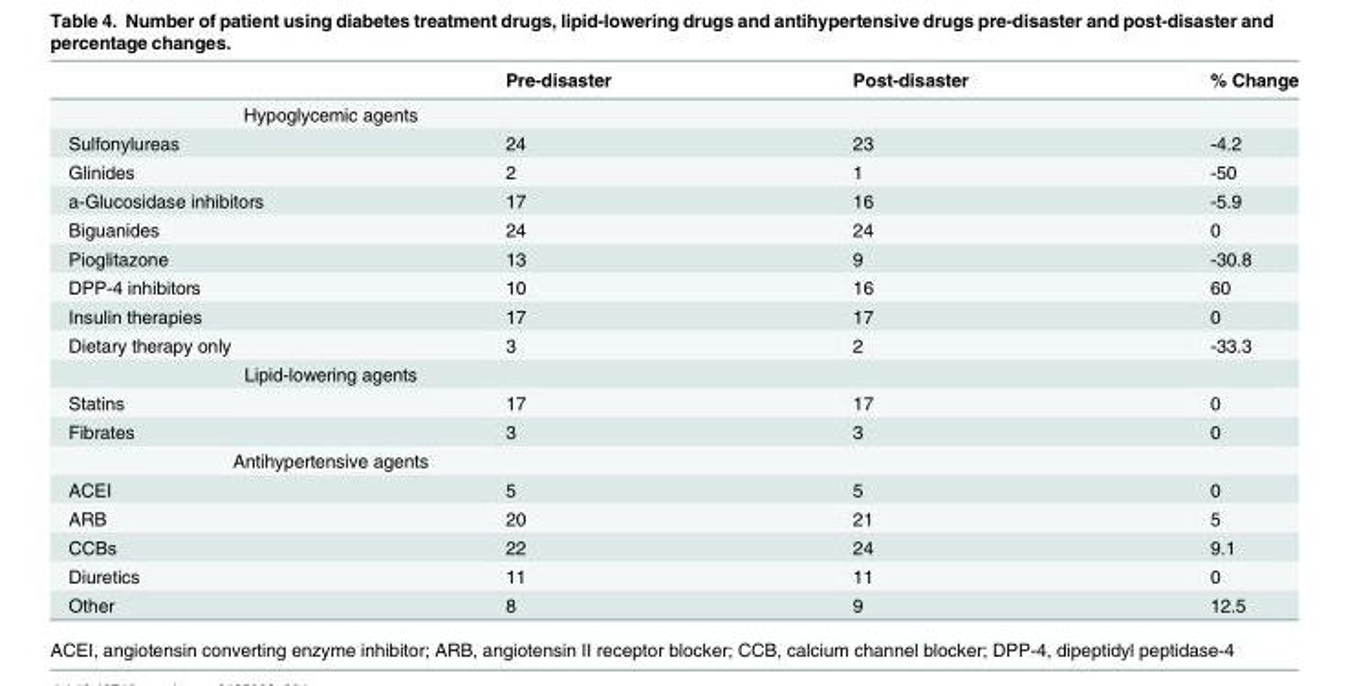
<table><thead><tr><td></td><td>Pre-disaster</td><td>Post-disaster</td><td>% Change</td></tr></thead><tbody><tr><td colspan="4">Hypoglycemic agents</td></tr><tr><td>Sulfonylureas</td><td>24</td><td>23</td><td>-4.2</td></tr><tr><td>Glinides</td><td>2</td><td>1</td><td>-50</td></tr><tr><td>a-Glucosidase inhibitors</td><td>17</td><td>16</td><td>-5.9</td></tr><tr><td>Biguanides</td><td>24</td><td>24</td><td>0</td></tr><tr><td>Pioglitazone</td><td>13</td><td>9</td><td>-30.8</td></tr><tr><td>DPP-4 inhibitors</td><td>10</td><td>16</td><td>60</td></tr><tr><td>Insulin therapies</td><td>17</td><td>17</td><td>0</td></tr><tr><td>Dietary therapy only</td><td>3</td><td>2</td><td>-33.3</td></tr><tr><td colspan="4">Lipid-lowering agents</td></tr><tr><td>Statins</td><td>17</td><td>17</td><td>0</td></tr><tr><td>Fibrates</td><td>3</td><td>3</td><td>0</td></tr><tr><td colspan="4">Antihypertensive agents</td></tr><tr><td>ACEI</td><td>5</td><td>5</td><td>0</td></tr><tr><td>ARB</td><td>20</td><td>21</td><td>5</td></tr><tr><td>CCBs</td><td>22</td><td>24</td><td>9.1</td></tr><tr><td>Diuretics</td><td>11</td><td>11</td><td>0</td></tr><tr><td>Other</td><td>8</td><td>9</td><td>12.5</td></tr></tbody></table>